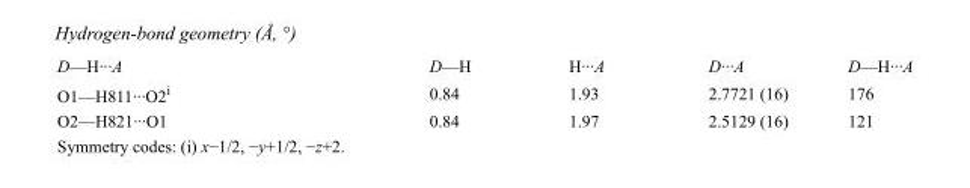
<table><tbody><tr><td>D—H···A</td><td>D—H</td><td>H···A</td><td>D···A</td><td>D—H···A</td></tr><tr><td>O1—H811···O2<sup>i</sup></td><td>0.84</td><td>1.93</td><td>2.7721 (16)</td><td>176</td></tr><tr><td>O2—H821···O1</td><td>0.84</td><td>1.97</td><td>2.5129 (16)</td><td>121</td></tr></tbody></table>